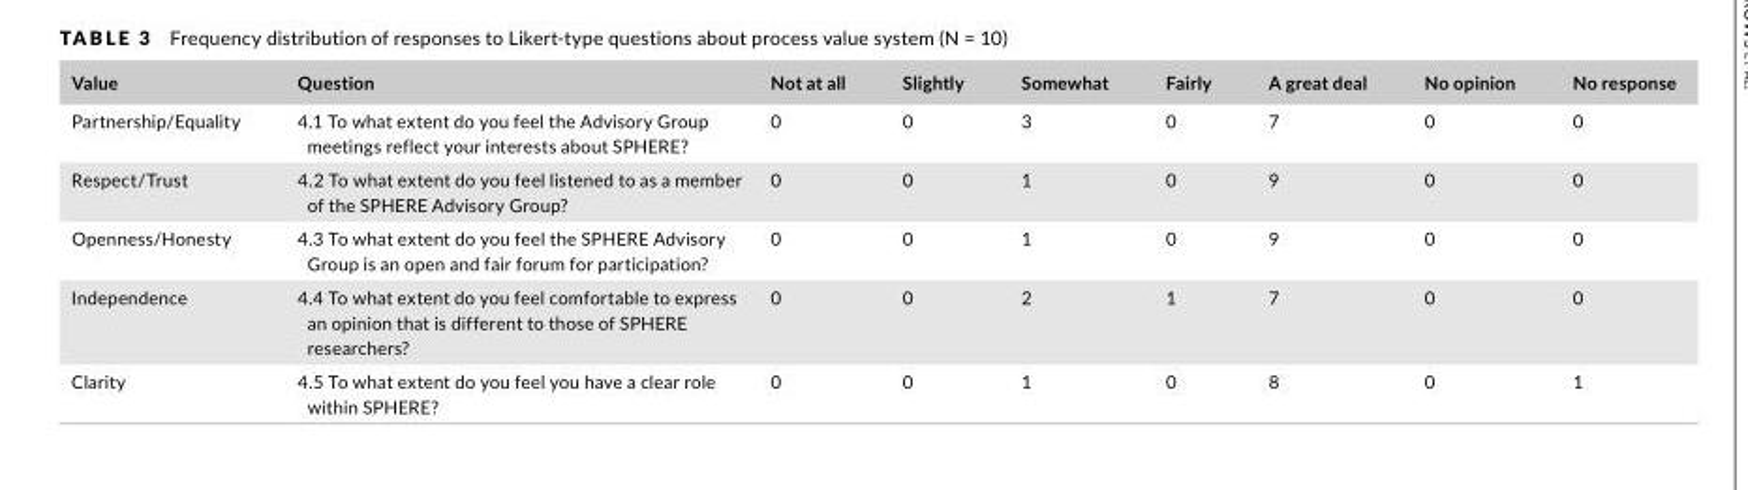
<table><thead><tr><td>Value</td><td>Question</td><td>Not at all</td><td>Slightly</td><td>Somewhat</td><td>Fairly</td><td>A great deal</td><td>No opinion</td><td>No response</td></tr></thead><tbody><tr><td>Partnership/Equality</td><td>4.1 To what extent do you feel the Advisory Group meetings reflect your interests about SPHERE?</td><td>0</td><td>0</td><td>3</td><td>0</td><td>7</td><td>0</td><td>0</td></tr><tr><td>Respect/Trust</td><td>4.2 To what extent do you feel listened to as a member of the SPHERE Advisory Group?</td><td>0</td><td>0</td><td>1</td><td>0</td><td>9</td><td>0</td><td>0</td></tr><tr><td>Openness/Honesty</td><td>4.3 To what extent do you feel the SPHERE Advisory Group is an open and fair forum for participation?</td><td>0</td><td>0</td><td>1</td><td>0</td><td>9</td><td>0</td><td>0</td></tr><tr><td>Independence</td><td>4.4 To what extent do you feel comfortable to express an opinion that is different to those of SPHERE researchers?</td><td>0</td><td>0</td><td>2</td><td>1</td><td>7</td><td>0</td><td>0</td></tr><tr><td>Clarity</td><td>4.5 To what extent do you feel you have a clear role within SPHERE?</td><td>0</td><td>0</td><td>1</td><td>0</td><td>8</td><td>0</td><td>1</td></tr></tbody></table>